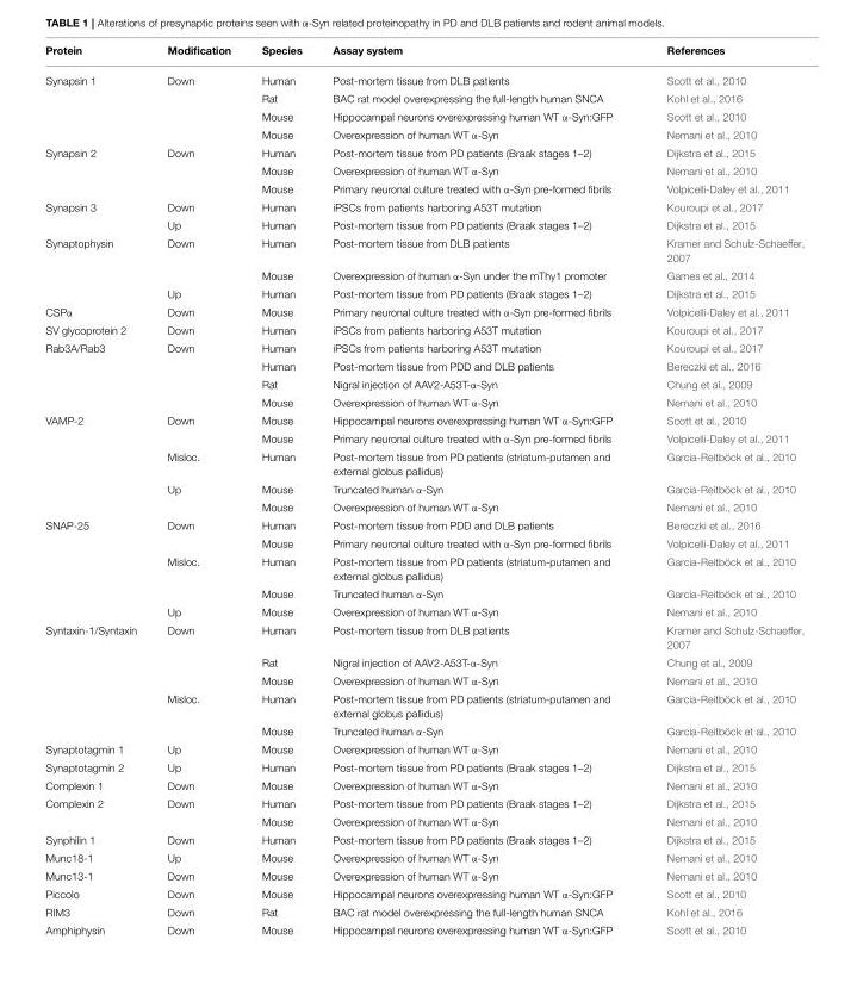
<table><thead><tr><td>Protein</td><td>Modification</td><td>Species</td><td>Assay system</td><td>References</td></tr></thead><tbody><tr><td rowspan="4">Synapsin 1</td><td>Down</td><td>Human</td><td>Post-mortem tissue from DLB patients</td><td>Scott et al., 2010</td></tr><tr><td></td><td>Rat</td><td>BAC rat model overexpressing the full-length human SNCA</td><td>Kohl et al., 2016</td></tr><tr><td></td><td>Mouse</td><td>Hippocampal neurons overexpressing human WT α-Syn:GFP</td><td>Scott et al., 2010</td></tr><tr><td></td><td>Mouse</td><td>Overexpression of human WT α-Syn</td><td>Nemani et al., 2010</td></tr><tr><td rowspan="3">Synapsin 2</td><td>Down</td><td>Human</td><td>Post-mortem tissue from PD patients (Braak stages 1–2)</td><td>Dijkstra et al., 2015</td></tr><tr><td></td><td>Mouse</td><td>Overexpression of human WT α-Syn</td><td>Nemani et al., 2010</td></tr><tr><td></td><td>Mouse</td><td>Primary neuronal culture treated with α-Syn pre-formed fibrils</td><td>Volpicelli-Daley et al., 2011</td></tr><tr><td rowspan="2">Synapsin 3</td><td>Down</td><td>Human</td><td>iPSCs from patients harboring A53T mutation</td><td>Kouroupi et al., 2017</td></tr><tr><td>Up</td><td>Human</td><td>Post-mortem tissue from PD patients (Braak stages 1–2)</td><td>Dijkstra et al., 2015</td></tr><tr><td rowspan="3">Synaptophysin</td><td>Down</td><td>Human</td><td>Post-mortem tissue from DLB patients</td><td>Kramer and Schulz-Schaeffer, 2007</td></tr><tr><td></td><td>Mouse</td><td>Overexpression of human α-Syn under the mThy1 promoter</td><td>Games et al., 2014</td></tr><tr><td>Up</td><td>Human</td><td>Post-mortem tissue from PD patients (Braak stages 1–2)</td><td>Dijkstra et al., 2015</td></tr><tr><td>CSPα</td><td>Down</td><td>Mouse</td><td>Primary neuronal culture treated with α-Syn pre-formed fibrils</td><td>Volpicelli-Daley et al., 2011</td></tr><tr><td>SV glycoprotein 2</td><td>Down</td><td>Human</td><td>iPSCs from patients harboring A53T mutation</td><td>Kouroupi et al., 2017</td></tr><tr><td rowspan="4">Rab3A/Rab3</td><td>Down</td><td>Human</td><td>iPSCs from patients harboring A53T mutation</td><td>Kouroupi et al., 2017</td></tr><tr><td></td><td>Human</td><td>Post-mortem tissue from PDD and DLB patients</td><td>Bereczki et al., 2016</td></tr><tr><td></td><td>Rat</td><td>Nigral injection of AAV2-A53T-α-Syn</td><td>Chung et al., 2009</td></tr><tr><td></td><td>Mouse</td><td>Overexpression of human WT α-Syn</td><td>Nemani et al., 2010</td></tr><tr><td rowspan="5">VAMP-2</td><td>Down</td><td>Mouse</td><td>Hippocampal neurons overexpressing human WT α-Syn:GFP</td><td>Scott et al., 2010</td></tr><tr><td></td><td>Mouse</td><td>Primary neuronal culture treated with α-Syn pre-formed fibrils</td><td>Volpicelli-Daley et al., 2011</td></tr><tr><td>Misloc.</td><td>Human</td><td>Post-mortem tissue from PD patients (striatum-putamen and external globus pallidus)</td><td>Garcia-Reitböck et al., 2010</td></tr><tr><td>Up</td><td>Mouse</td><td>Truncated human α-Syn</td><td>Garcia-Reitböck et al., 2010</td></tr><tr><td></td><td>Mouse</td><td>Overexpression of human WT α-Syn</td><td>Nemani et al., 2010</td></tr><tr><td rowspan="5">SNAP-25</td><td>Down</td><td>Human</td><td>Post-mortem tissue from PDD and DLB patients</td><td>Bereczki et al., 2016</td></tr><tr><td></td><td>Mouse</td><td>Primary neuronal culture treated with α-Syn pre-formed fibrils</td><td>Volpicelli-Daley et al., 2011</td></tr><tr><td>Misloc.</td><td>Human</td><td>Post-mortem tissue from PD patients (striatum-putamen and external globus pallidus)</td><td>Garcia-Reitböck et al., 2010</td></tr><tr><td></td><td>Mouse</td><td>Truncated human α-Syn</td><td>Garcia-Reitböck et al., 2010</td></tr><tr><td>Up</td><td>Mouse</td><td>Overexpression of human WT α-Syn</td><td>Nemani et al., 2010</td></tr><tr><td rowspan="5">Syntaxin-1/Syntaxin</td><td>Down</td><td>Human</td><td>Post-mortem tissue from DLB patients</td><td>Kramer and Schulz-Schaeffer, 2007</td></tr><tr><td></td><td>Rat</td><td>Nigral injection of AAV2-A53T-α-Syn</td><td>Chung et al., 2009</td></tr><tr><td></td><td>Mouse</td><td>Overexpression of human WT α-Syn</td><td>Nemani et al., 2010</td></tr><tr><td>Misloc.</td><td>Human</td><td>Post-mortem tissue from PD patients (striatum-putamen and external globus pallidus)</td><td>Garcia-Reitböck et al., 2010</td></tr><tr><td></td><td>Mouse</td><td>Truncated human α-Syn</td><td>Garcia-Reitböck et al., 2010</td></tr><tr><td>Synaptotagmin 1</td><td>Up</td><td>Mouse</td><td>Overexpression of human WT α-Syn</td><td>Nemani et al., 2010</td></tr><tr><td>Synaptotagmin 2</td><td>Up</td><td>Human</td><td>Post-mortem tissue from PD patients (Braak stages 1–2)</td><td>Dijkstra et al., 2015</td></tr><tr><td>Complexin 1</td><td>Down</td><td>Mouse</td><td>Overexpression of human WT α-Syn</td><td>Nemani et al., 2010</td></tr><tr><td rowspan="2">Complexin 2</td><td>Down</td><td>Human</td><td>Post-mortem tissue from PD patients (Braak stages 1–2)</td><td>Dijkstra et al., 2015</td></tr><tr><td></td><td>Mouse</td><td>Overexpression of human WT α-Syn</td><td>Nemani et al., 2010</td></tr><tr><td>Synphilin 1</td><td>Down</td><td>Human</td><td>Post-mortem tissue from PD patients (Braak stages 1–2)</td><td>Dijkstra et al., 2015</td></tr><tr><td>Munc18-1</td><td>Up</td><td>Mouse</td><td>Overexpression of human WT α-Syn</td><td>Nemani et al., 2010</td></tr><tr><td>Munc13-1</td><td>Down</td><td>Mouse</td><td>Overexpression of human WT α-Syn</td><td>Nemani et al., 2010</td></tr><tr><td>Piccolo</td><td>Down</td><td>Mouse</td><td>Hippocampal neurons overexpressing human WT α-Syn:GFP</td><td>Scott et al., 2010</td></tr><tr><td>RIM3</td><td>Down</td><td>Rat</td><td>BAC rat model overexpressing the full-length human SNCA</td><td>Kohl et al., 2016</td></tr><tr><td>Amphiphysin</td><td>Down</td><td>Mouse</td><td>Hippocampal neurons overexpressing human WT α-Syn:GFP</td><td>Scott et al., 2010</td></tr></tbody></table>